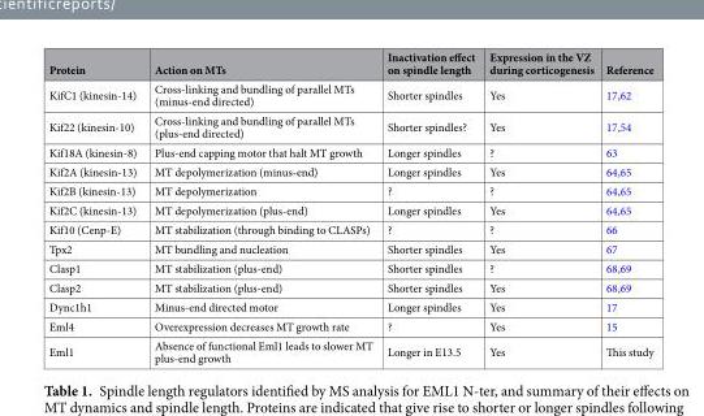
<table><thead><tr><td>Protein</td><td>Action on MTs</td><td>Inactivation effect on spindle length</td><td>Expression in the VZ during corticogenesis</td><td>Reference</td></tr></thead><tbody><tr><td>KifC1 (kinesin-14)</td><td>Cross-linking and bundling of parallel MTs (minus-end directed)</td><td>Shorter spindles</td><td>Yes</td><td>17,62</td></tr><tr><td>Kif22 (kinesin-10)</td><td>Cross-linking and bundling of parallel MTs (plus-end directed)</td><td>Shorter spindles?</td><td>Yes</td><td>17,54</td></tr><tr><td>Kif18A (kinesin-8)</td><td>Plus-end capping motor that halt MT growth</td><td>Longer spindles</td><td>?</td><td>63</td></tr><tr><td>Kif2A (kinesin-13)</td><td>MT depolymerization (minus-end)</td><td>Longer spindles</td><td>Yes</td><td>64,65</td></tr><tr><td>Kif2B (kinesin-13)</td><td>MT depolymerization</td><td>?</td><td>?</td><td>64,65</td></tr><tr><td>Kif2C (kinesin-13)</td><td>MT depolymerization (plus-end)</td><td>Longer spindles</td><td>Yes</td><td>64,65</td></tr><tr><td>Kif10 (Cenp-E)</td><td>MT stabilization (through binding to CLASPs)</td><td>?</td><td>?</td><td>66</td></tr><tr><td>Tpx2</td><td>MT bundling and nucleation</td><td>Shorter spindles</td><td>Yes</td><td>67</td></tr><tr><td>Clasp1</td><td>MT stabilization (plus-end)</td><td>Shorter spindles</td><td>?</td><td>68,69</td></tr><tr><td>Clasp2</td><td>MT stabilization (plus-end)</td><td>Shorter spindles</td><td>Yes</td><td>68,69</td></tr><tr><td>Dync1h1</td><td>Minus-end directed motor</td><td>Longer spindles</td><td>Yes</td><td>17</td></tr><tr><td>Eml4</td><td>Overexpression decreases MT growth rate</td><td>?</td><td>Yes</td><td>15</td></tr><tr><td>Eml1</td><td>Absence of functional Eml1 leads to slower MT plus-end growth</td><td>Longer in E13.5</td><td>Yes</td><td>This study</td></tr></tbody></table>